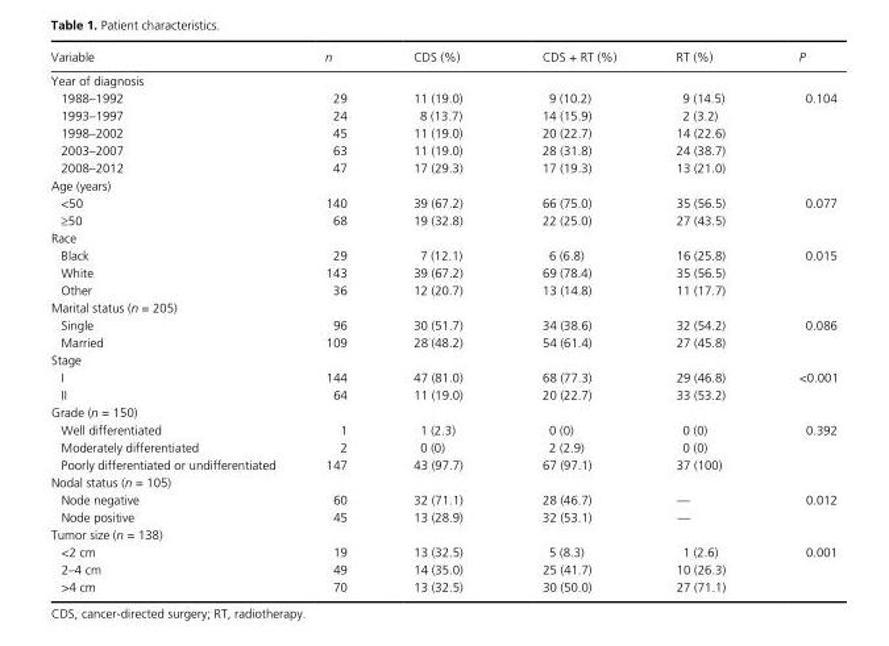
<table><thead><tr><td>Variable</td><td>n</td><td>CDS (%)</td><td>CDS + RT (%)</td><td>RT (%)</td><td>P</td></tr></thead><tbody><tr><td colspan="6">Year of diagnosis</td></tr><tr><td>1988–1992</td><td>29</td><td>11 (19.0)</td><td>9 (10.2)</td><td>9 (14.5)</td><td>0.104</td></tr><tr><td>1993–1997</td><td>24</td><td>8 (13.7)</td><td>14 (15.9)</td><td>2 (3.2)</td><td></td></tr><tr><td>1998–2002</td><td>45</td><td>11 (19.0)</td><td>20 (22.7)</td><td>14 (22.6)</td><td></td></tr><tr><td>2003–2007</td><td>63</td><td>11 (19.0)</td><td>28 (31.8)</td><td>24 (38.7)</td><td></td></tr><tr><td>2008–2012</td><td>47</td><td>17 (29.3)</td><td>17 (19.3)</td><td>13 (21.0)</td><td></td></tr><tr><td colspan="6">Age (years)</td></tr><tr><td>&lt;50</td><td>140</td><td>39 (67.2)</td><td>66 (75.0)</td><td>35 (56.5)</td><td>0.077</td></tr><tr><td>≥50</td><td>68</td><td>19 (32.8)</td><td>22 (25.0)</td><td>27 (43.5)</td><td></td></tr><tr><td colspan="6">Race</td></tr><tr><td>Black</td><td>29</td><td>7 (12.1)</td><td>6 (6.8)</td><td>16 (25.8)</td><td>0.015</td></tr><tr><td>White</td><td>143</td><td>39 (67.2)</td><td>69 (78.4)</td><td>35 (56.5)</td><td></td></tr><tr><td>Other</td><td>36</td><td>12 (20.7)</td><td>13 (14.8)</td><td>11 (17.7)</td><td></td></tr><tr><td colspan="6">Marital status (n = 205)</td></tr><tr><td>Single</td><td>96</td><td>30 (51.7)</td><td>34 (38.6)</td><td>32 (54.2)</td><td>0.086</td></tr><tr><td>Married</td><td>109</td><td>28 (48.2)</td><td>54 (61.4)</td><td>27 (45.8)</td><td></td></tr><tr><td colspan="6">Stage</td></tr><tr><td>I</td><td>144</td><td>47 (81.0)</td><td>68 (77.3)</td><td>29 (46.8)</td><td>&lt;0.001</td></tr><tr><td>II</td><td>64</td><td>11 (19.0)</td><td>20 (22.7)</td><td>33 (53.2)</td><td></td></tr><tr><td colspan="6">Grade (n = 150)</td></tr><tr><td>Well differentiated</td><td>1</td><td>1 (2.3)</td><td>0 (0)</td><td>0 (0)</td><td>0.392</td></tr><tr><td>Moderately differentiated</td><td>2</td><td>0 (0)</td><td>2 (2.9)</td><td>0 (0)</td><td></td></tr><tr><td>Poorly differentiated or undifferentiated</td><td>147</td><td>43 (97.7)</td><td>67 (97.1)</td><td>37 (100)</td><td></td></tr><tr><td colspan="6">Nodal status (n = 105)</td></tr><tr><td>Node negative</td><td>60</td><td>32 (71.1)</td><td>28 (46.7)</td><td>—</td><td>0.012</td></tr><tr><td>Node positive</td><td>45</td><td>13 (28.9)</td><td>32 (53.1)</td><td>—</td><td></td></tr><tr><td colspan="6">Tumor size (n = 138)</td></tr><tr><td>&lt;2 cm</td><td>19</td><td>13 (32.5)</td><td>5 (8.3)</td><td>1 (2.6)</td><td>0.001</td></tr><tr><td>2–4 cm</td><td>49</td><td>14 (35.0)</td><td>25 (41.7)</td><td>10 (26.3)</td><td></td></tr><tr><td>&gt;4 cm</td><td>70</td><td>13 (32.5)</td><td>30 (50.0)</td><td>27 (71.1)</td><td></td></tr></tbody></table>